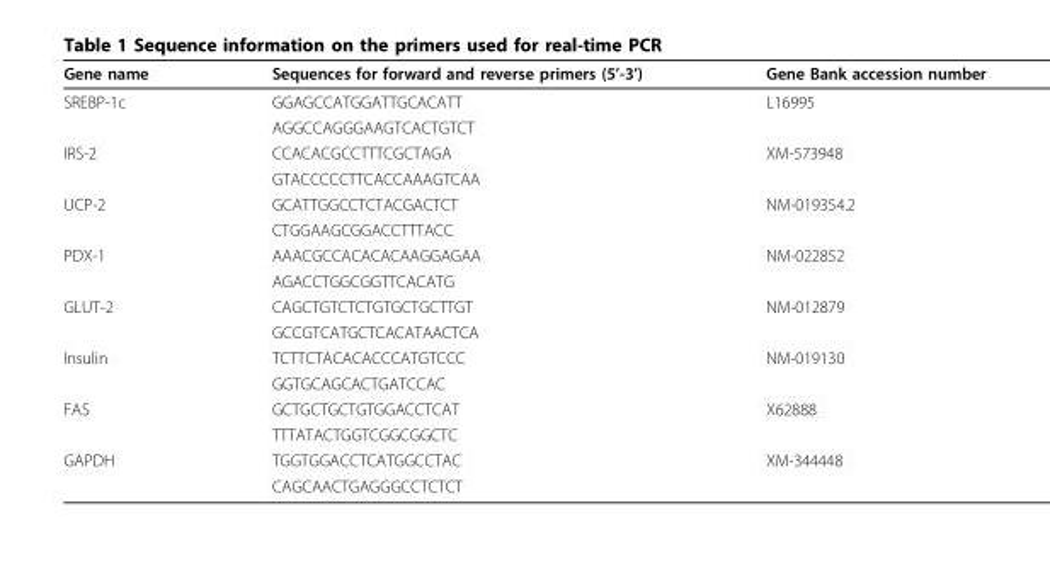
<table><thead><tr><td>Gene name</td><td>Sequences for forward and reverse primers (5’-3’)</td><td>Gene Bank accession number</td></tr></thead><tbody><tr><td rowspan="2">SREBP-1c</td><td>GGAGCCATGGATTGCACATT</td><td>L16995</td></tr><tr><td>AGGCCAGGGAAGTCACTGTCT</td><td></td></tr><tr><td rowspan="2">IRS-2</td><td>CCACACGCCTTTCGCTAGA</td><td>XM-573948</td></tr><tr><td>GTACCCCCTTCACCAAAGTCAA</td><td></td></tr><tr><td rowspan="2">UCP-2</td><td>GCATTGGCCTCTACGACTCT</td><td>NM-019354.2</td></tr><tr><td>CTGGAAGCGGACCTTTACC</td><td></td></tr><tr><td rowspan="2">PDX-1</td><td>AAACGCCACACACAAGGAGAA</td><td>NM-022852</td></tr><tr><td>AGACCTGGCGGTTCACATG</td><td></td></tr><tr><td rowspan="2">GLUT-2</td><td>CAGCTGTCTCTGTGCTGCTTGT</td><td>NM-012879</td></tr><tr><td>GCCGTCATGCTCACATAACTCA</td><td></td></tr><tr><td rowspan="2">Insulin</td><td>TCTTCTACACACCCATGTCCC</td><td>NM-019130</td></tr><tr><td>GGTGCAGCACTGATCCAC</td><td></td></tr><tr><td rowspan="2">FAS</td><td>GCTGCTGCTGTGGACCTCAT</td><td>X62888</td></tr><tr><td>TTTATACTGGTCGGCGGCTC</td><td></td></tr><tr><td rowspan="2">GAPDH</td><td>TGGTGGACCTCATGGCCTAC</td><td>XM-344448</td></tr><tr><td>CAGCAACTGAGGGCCTCTCT</td><td></td></tr></tbody></table>